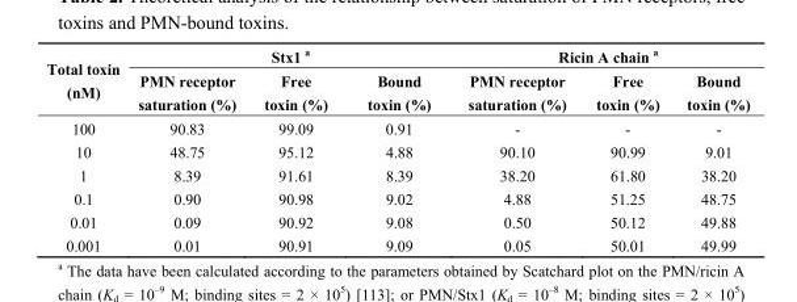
<table><thead><tr><td rowspan="2">Total toxin (nM)</td><td colspan="3">Stx1 <sup>a</sup></td><td colspan="3">Ricin A chain <sup>a</sup></td></tr><tr><td>PMN receptor saturation (%)</td><td>Free toxin (%)</td><td>Bound toxin (%)</td><td>PMN receptor saturation (%)</td><td>Free toxin (%)</td><td>Bound toxin (%)</td></tr></thead><tbody><tr><td>100</td><td>90.83</td><td>99.09</td><td>0.91</td><td>-</td><td>-</td><td>-</td></tr><tr><td>10</td><td>48.75</td><td>95.12</td><td>4.88</td><td>90.10</td><td>90.99</td><td>9.01</td></tr><tr><td>1</td><td>8.39</td><td>91.61</td><td>8.39</td><td>38.20</td><td>61.80</td><td>38.20</td></tr><tr><td>0.1</td><td>0.90</td><td>90.98</td><td>9.02</td><td>4.88</td><td>51.25</td><td>48.75</td></tr><tr><td>0.01</td><td>0.09</td><td>90.92</td><td>9.08</td><td>0.50</td><td>50.12</td><td>49.88</td></tr><tr><td>0.001</td><td>0.01</td><td>90.91</td><td>9.09</td><td>0.05</td><td>50.01</td><td>49.99</td></tr></tbody></table>